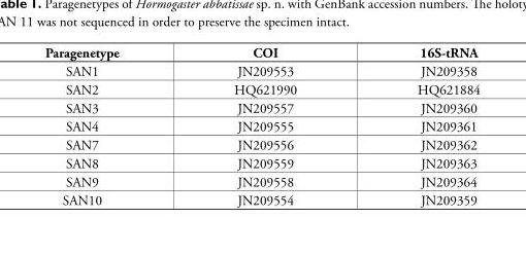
<table><thead><tr><td>Paragenetype</td><td>COI</td><td>16S-tRNA</td></tr></thead><tbody><tr><td>SAN1</td><td>JN209553</td><td>JN209358</td></tr><tr><td>SAN2</td><td>HQ621990</td><td>HQ621884</td></tr><tr><td>SAN3</td><td>JN209557</td><td>JN209360</td></tr><tr><td>SAN4</td><td>JN209555</td><td>JN209361</td></tr><tr><td>SAN7</td><td>JN209556</td><td>JN209362</td></tr><tr><td>SAN8</td><td>JN209559</td><td>JN209363</td></tr><tr><td>SAN9</td><td>JN209558</td><td>JN209364</td></tr><tr><td>SAN10</td><td>JN209554</td><td>JN209359</td></tr></tbody></table>